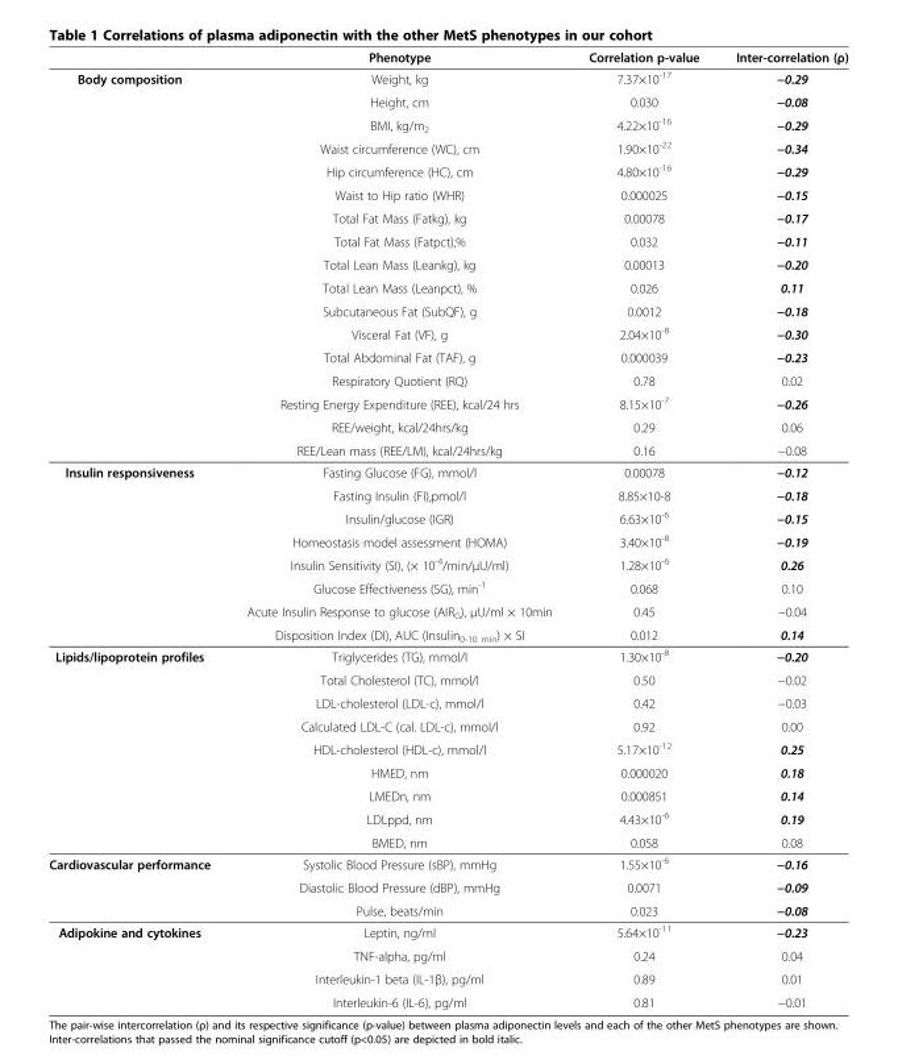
<table><thead><tr><td></td><td>Phenotype</td><td>Correlation p-value</td><td>Inter-correlation (ρ)</td></tr></thead><tbody><tr><td rowspan="17">Body composition</td><td>Weight, kg</td><td>7.37×10<sup>-17</sup></td><td>−0.29</td></tr><tr><td>Height, cm</td><td>0.030</td><td>−0.08</td></tr><tr><td>BMI, kg/m<sub>2</sub></td><td>4.22×10<sup>-16</sup></td><td>−0.29</td></tr><tr><td>Waist circumference (WC), cm</td><td>1.90×10<sup>-22</sup></td><td>−0.34</td></tr><tr><td>Hip circumference (HC), cm</td><td>4.80×10<sup>-16</sup></td><td>−0.29</td></tr><tr><td>Waist to Hip ratio (WHR)</td><td>0.000025</td><td>−0.15</td></tr><tr><td>Total Fat Mass (Fatkg), kg</td><td>0.00078</td><td>−0.17</td></tr><tr><td>Total Fat Mass (Fatpct),%</td><td>0.032</td><td>−0.11</td></tr><tr><td>Total Lean Mass (Leankg), kg</td><td>0.00013</td><td>−0.20</td></tr><tr><td>Total Lean Mass (Leanpct), %</td><td>0.026</td><td>0.11</td></tr><tr><td>Subcutaneous Fat (SubQF), g</td><td>0.0012</td><td>−0.18</td></tr><tr><td>Visceral Fat (VF), g</td><td>2.04×10<sup>-8</sup></td><td>−0.30</td></tr><tr><td>Total Abdominal Fat (TAF), g</td><td>0.000039</td><td>−0.23</td></tr><tr><td>Respiratory Quotient (RQ)</td><td>0.78</td><td>0.02</td></tr><tr><td>Resting Energy Expenditure (REE), kcal/24 hrs</td><td>8.15×10<sup>-7</sup></td><td>−0.26</td></tr><tr><td>REE/weight, kcal/24hrs/kg</td><td>0.29</td><td>0.06</td></tr><tr><td>REE/Lean mass (REE/LM), kcal/24hrs/kg</td><td>0.16</td><td>−0.08</td></tr><tr><td rowspan="8">Insulin responsiveness</td><td>Fasting Glucose (FG), mmol/l</td><td>0.00078</td><td>−0.12</td></tr><tr><td>Fasting Insulin (FI),pmol/l</td><td>8.85×10-8</td><td>−0.18</td></tr><tr><td>Insulin/glucose (IGR)</td><td>6.63×10<sup>-6</sup></td><td>−0.15</td></tr><tr><td>Homeostasis model assessment (HOMA)</td><td>3.40×10<sup>-8</sup></td><td>−0.19</td></tr><tr><td>Insulin Sensitivity (SI), (× 10<sup>-4</sup>/min/μU/ml)</td><td>1.28×10<sup>-6</sup></td><td>0.26</td></tr><tr><td>Glucose Effectiveness (SG), min<sup>-1</sup></td><td>0.068</td><td>0.10</td></tr><tr><td>Acute Insulin Response to glucose (AIR<sub>G</sub>), μU/ml × 10min</td><td>0.45</td><td>−0.04</td></tr><tr><td>Disposition Index (DI), AUC (Insulin<sub>0-10 min</sub>) × SI</td><td>0.012</td><td>0.14</td></tr><tr><td rowspan="9">Lipids/lipoprotein profiles</td><td>Triglycerides (TG), mmol/l</td><td>1.30×10<sup>-8</sup></td><td>−0.20</td></tr><tr><td>Total Cholesterol (TC), mmol/l</td><td>0.50</td><td>−0.02</td></tr><tr><td>LDL-cholesterol (LDL-c), mmol/l</td><td>0.42</td><td>−0.03</td></tr><tr><td>Calculated LDL-C (cal. LDL-c), mmol/l</td><td>0.92</td><td>0.00</td></tr><tr><td>HDL-cholesterol (HDL-c), mmol/l</td><td>5.17×10<sup>-12</sup></td><td>0.25</td></tr><tr><td>HMED, nm</td><td>0.000020</td><td>0.18</td></tr><tr><td>LMEDn, nm</td><td>0.000851</td><td>0.14</td></tr><tr><td>LDLppd, nm</td><td>4.43×10<sup>-6</sup></td><td>0.19</td></tr><tr><td>BMED, nm</td><td>0.058</td><td>0.08</td></tr><tr><td rowspan="3">Cardiovascular performance</td><td>Systolic Blood Pressure (sBP), mmHg</td><td>1.55×10<sup>-6</sup></td><td>−0.16</td></tr><tr><td>Diastolic Blood Pressure (dBP), mmHg</td><td>0.0071</td><td>−0.09</td></tr><tr><td>Pulse, beats/min</td><td>0.023</td><td>−0.08</td></tr><tr><td rowspan="4">Adipokine and cytokines</td><td>Leptin, ng/ml</td><td>5.64×10<sup>-11</sup></td><td>−0.23</td></tr><tr><td>TNF-alpha, pg/ml</td><td>0.24</td><td>0.04</td></tr><tr><td>Interleukin-1 beta (IL-1β), pg/ml</td><td>0.89</td><td>0.01</td></tr><tr><td>Interleukin-6 (IL-6), pg/ml</td><td>0.81</td><td>−0.01</td></tr></tbody></table>